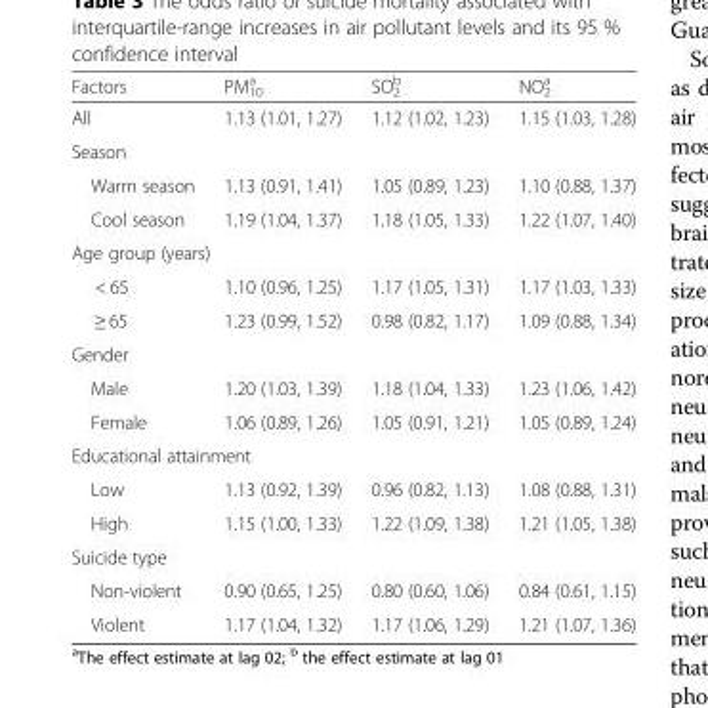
<table><thead><tr><td>Factors</td><td>PM<sub>10</sub> <sup>a</sup></td><td>SO<sub>2</sub> <sup>b</sup></td><td>NO<sub>2</sub> <sup>a</sup></td></tr></thead><tbody><tr><td>All</td><td>1.13 (1.01, 1.27)</td><td>1.12 (1.02, 1.23)</td><td>1.15 (1.03, 1.28)</td></tr><tr><td colspan="4">Season</td></tr><tr><td>Warm season</td><td>1.13 (0.91, 1.41)</td><td>1.05 (0.89, 1.23)</td><td>1.10 (0.88, 1.37)</td></tr><tr><td>Cool season</td><td>1.19 (1.04, 1.37)</td><td>1.18 (1.05, 1.33)</td><td>1.22 (1.07, 1.40)</td></tr><tr><td colspan="4">Age group (years)</td></tr><tr><td>&lt; 65</td><td>1.10 (0.96, 1.25)</td><td>1.17 (1.05, 1.31)</td><td>1.17 (1.03, 1.33)</td></tr><tr><td>≥ 65</td><td>1.23 (0.99, 1.52)</td><td>0.98 (0.82, 1.17)</td><td>1.09 (0.88, 1.34)</td></tr><tr><td colspan="4">Gender</td></tr><tr><td>Male</td><td>1.20 (1.03, 1.39)</td><td>1.18 (1.04, 1.33)</td><td>1.23 (1.06, 1.42)</td></tr><tr><td>Female</td><td>1.06 (0.89, 1.26)</td><td>1.05 (0.91, 1.21)</td><td>1.05 (0.89, 1.24)</td></tr><tr><td colspan="4">Educational attainment</td></tr><tr><td>Low</td><td>1.13 (0.92, 1.39)</td><td>0.96 (0.82, 1.13)</td><td>1.08 (0.88, 1.31)</td></tr><tr><td>High</td><td>1.15 (1.00, 1.33)</td><td>1.22 (1.09, 1.38)</td><td>1.21 (1.05, 1.38)</td></tr><tr><td colspan="4">Suicide type</td></tr><tr><td>Non-violent</td><td>0.90 (0.65, 1.25)</td><td>0.80 (0.60, 1.06)</td><td>0.84 (0.61, 1.15)</td></tr><tr><td>Violent</td><td>1.17 (1.04, 1.32)</td><td>1.17 (1.06, 1.29)</td><td>1.21 (1.07, 1.36)</td></tr></tbody></table>